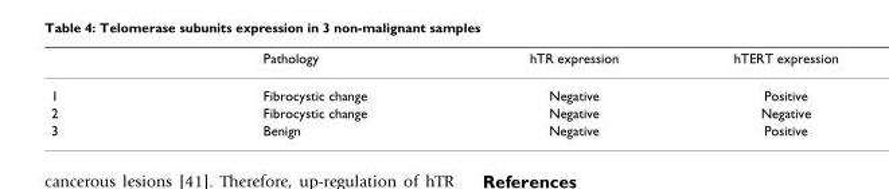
<table><thead><tr><td></td><td>Pathology</td><td>hTR expression</td><td>hTERT expression</td></tr></thead><tbody><tr><td>1</td><td>Fibrocystic change</td><td>Negative</td><td>Positive</td></tr><tr><td>2</td><td>Fibrocystic change</td><td>Negative</td><td>Negative</td></tr><tr><td>3</td><td>Benign</td><td>Negative</td><td>Positive</td></tr></tbody></table>